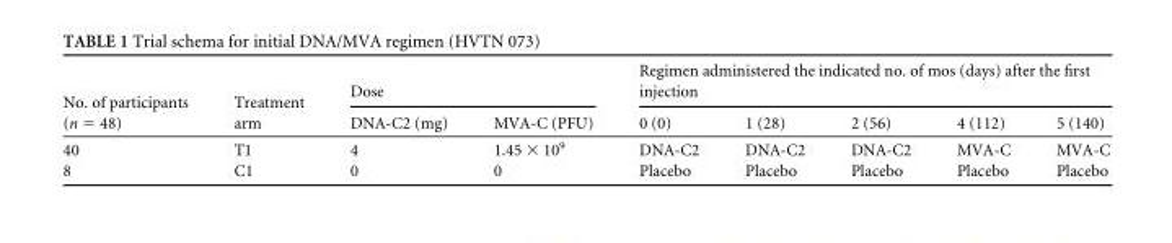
<table><thead><tr><td rowspan="2">No. of participants (n = 48)</td><td rowspan="2">Treatment arm</td><td colspan="2">Dose</td><td colspan="5">Regimen administered the indicated no. of mos (days) after the first injection</td></tr><tr><td>DNA-C2 (mg)</td><td>MVA-C (PFU)</td><td>0 (0)</td><td>1 (28)</td><td>2 (56)</td><td>4 (112)</td><td>5 (140)</td></tr></thead><tbody><tr><td>40</td><td>T1</td><td>4</td><td>1.45 × 10<sup>9</sup></td><td>DNA-C2</td><td>DNA-C2</td><td>DNA-C2</td><td>MVA-C</td><td>MVA-C</td></tr><tr><td>8</td><td>C1</td><td>0</td><td>0</td><td>Placebo</td><td>Placebo</td><td>Placebo</td><td>Placebo</td><td>Placebo</td></tr></tbody></table>